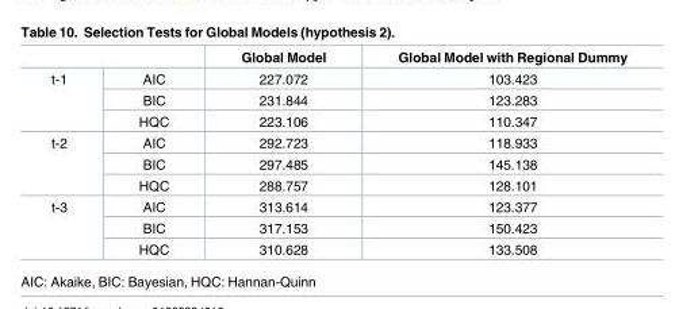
<table><thead><tr><td></td><td></td><td>Global Model</td><td>Global Model with Regional Dummy</td></tr></thead><tbody><tr><td rowspan="3">t-1</td><td>AIC</td><td>227.072</td><td>103.423</td></tr><tr><td>BIC</td><td>231.844</td><td>123.283</td></tr><tr><td>HQC</td><td>223.106</td><td>110.347</td></tr><tr><td rowspan="3">t-2</td><td>AIC</td><td>292.723</td><td>118.933</td></tr><tr><td>BIC</td><td>297.485</td><td>145.138</td></tr><tr><td>HQC</td><td>288.757</td><td>128.101</td></tr><tr><td rowspan="3">t-3</td><td>AIC</td><td>313.614</td><td>123.377</td></tr><tr><td>BIC</td><td>317.153</td><td>150.423</td></tr><tr><td>HQC</td><td>310.628</td><td>133.508</td></tr></tbody></table>